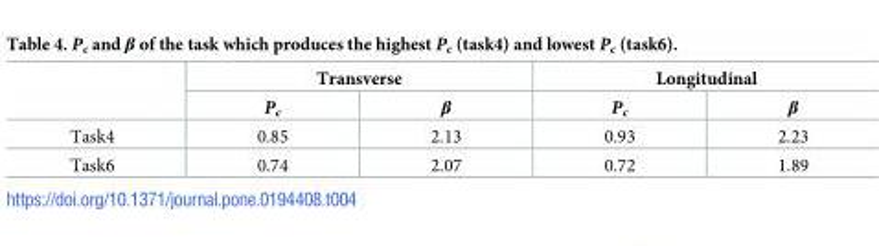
<table><thead><tr><td rowspan="2"></td><td colspan="2">Transverse</td><td colspan="2">Longitudinal</td></tr><tr><td>P<sub>c</sub></td><td>β</td><td>P<sub>c</sub></td><td>β</td></tr></thead><tbody><tr><td>Task4</td><td>0.85</td><td>2.13</td><td>0.93</td><td>2.23</td></tr><tr><td>Task6</td><td>0.74</td><td>2.07</td><td>0.72</td><td>1.89</td></tr></tbody></table>